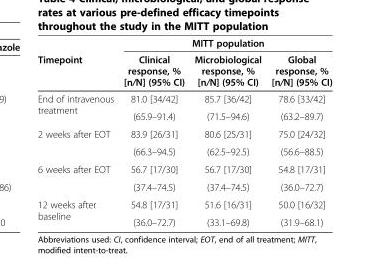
<table><thead><tr><td rowspan="2">Timepoint</td><td colspan="3">MITT population</td></tr><tr><td>Clinical response, % [n/N] (95% CI)</td><td>Microbiological response, % [n/N] (95% CI)</td><td>Global response, % [n/N] (95% CI)</td></tr></thead><tbody><tr><td rowspan="2">End of intravenous treatment</td><td>81.0 [34/42]</td><td>85.7 [36/42]</td><td>78.6 [33/42]</td></tr><tr><td>(65.9–91.4)</td><td>(71.5–94.6)</td><td>(63.2–89.7)</td></tr><tr><td rowspan="2">2 weeks after EOT</td><td>83.9 [26/31]</td><td>80.6 [25/31]</td><td>75.0 [24/32]</td></tr><tr><td>(66.3–94.5)</td><td>(62.5–92.5)</td><td>(56.6–88.5)</td></tr><tr><td rowspan="2">6 weeks after EOT</td><td>56.7 [17/30]</td><td>56.7 [17/30]</td><td>54.8 [17/31]</td></tr><tr><td>(37.4–74.5)</td><td>(37.4–74.5)</td><td>(36.0–72.7)</td></tr><tr><td rowspan="2">12 weeks after baseline</td><td>54.8 [17/31]</td><td>51.6 [16/31]</td><td>50.0 [16/32]</td></tr><tr><td>(36.0–72.7)</td><td>(33.1–69.8)</td><td>(31.9–68.1)</td></tr></tbody></table>